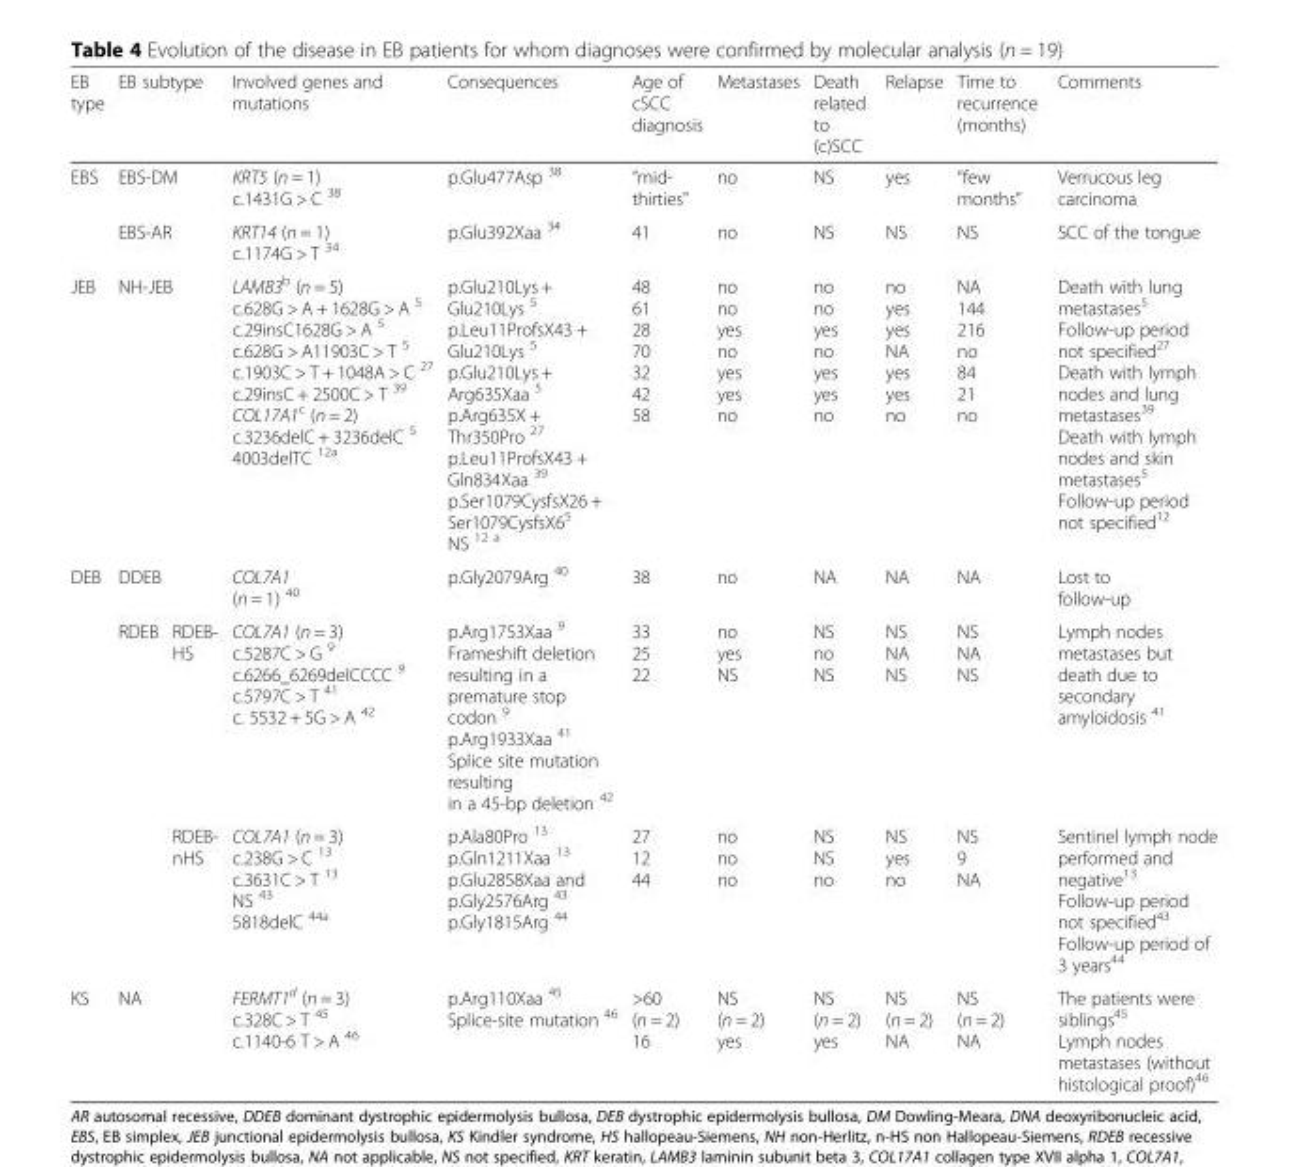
<table><thead><tr><td>EB type</td><td colspan="2">EB subtype</td><td>Involved genes and mutations</td><td>Consequences</td><td>Age of cSCC diagnosis</td><td>Metastases</td><td>Death related to (c)SCC</td><td>Relapse</td><td>Time to recurrence (months)</td><td>Comments</td></tr></thead><tbody><tr><td rowspan="2">EBS</td><td colspan="2">EBS-DM</td><td>KRT5 (n = 1) c.1431G &gt; C <sup>38</sup></td><td>p.Glu477Asp <sup>38</sup></td><td>“mid- thirties&quot;</td><td>no</td><td>NS</td><td>yes</td><td>“few months”</td><td>Verrucous leg carcinoma</td></tr><tr><td colspan="2">EBS-AR</td><td>KRT14 (n = 1) c.1174G &gt; T <sup>34</sup></td><td>p.Glu392Xaa <sup>34</sup></td><td>41</td><td>no</td><td>NS</td><td>NS</td><td>NS</td><td>SCC of the tongue</td></tr><tr><td>JEB</td><td colspan="2">NH-JEB</td><td>LAMB3<sup>b</sup> (n = 5) c.628G &gt; A + 1628G &gt; A <sup>5</sup> c.29insC1628G &gt; A <sup>5</sup> c.628G &gt; A11903C &gt; T <sup>5</sup> c.1903C &gt; T + 1048A &gt; C <sup>27</sup> c.29insC + 2500C &gt; T <sup>39</sup> COL17A1<sup>c</sup> (n = 2) c.3236delC + 3236delC <sup>5</sup> 4003delTC <sup>12a</sup></td><td>p.Glu210Lys + Glu210Lys <sup>5</sup> p.Leu11ProfsX43 + Glu210Lys <sup>5</sup> p.Glu210Lys + Arg635Xaa <sup>5</sup> p.Arg635X + Thr350Pro <sup>27</sup> p.Leu11ProfsX43 + Gln834Xaa <sup>39</sup> p.Ser1079CysfsX26 + Ser1079CysfsX6<sup>5</sup> NS <sup>12 a</sup></td><td>48 61 28 70 32 42 58</td><td>no no yes no yes yes no</td><td>no no yes no yes yes no</td><td>no yes yes NA yes yes no</td><td>NA 144 216 no 84 21 no</td><td>Death with lung metastases<sup>5</sup> Follow-up period not specified<sup>27</sup> Death with lymph nodes and lung metastases<sup>39</sup> Death with lymph nodes and skin metastases<sup>5</sup> Follow-up period not specified<sup>12</sup></td></tr><tr><td rowspan="3">DEB</td><td colspan="2">DDEB</td><td>COL7A1 (n = 1) <sup>40</sup></td><td>p.Gly2079Arg <sup>40</sup></td><td>38</td><td>no</td><td>NA</td><td>NA</td><td>NA</td><td>Lost to follow-up</td></tr><tr><td rowspan="2">RDEB</td><td>RDEB- HS</td><td>COL7A1 (n = 3) c.5287C &gt; G <sup>9</sup> c.6266_6269delCCCC <sup>9</sup> c.5797C &gt; T <sup>41</sup> c. 5532 + 5G &gt; A <sup>42</sup></td><td>p.Arg1753Xaa <sup>9</sup> Frameshift deletion resulting in a premature stop codon <sup>9</sup> p.Arg1933Xaa <sup>41</sup> Splice site mutation resulting in a 45-bp deletion <sup>42</sup></td><td>33 25 22</td><td>no yes NS</td><td>NS no NS</td><td>NS NA NS</td><td>NS NA NS</td><td>Lymph nodes metastases but death due to secondary amyloidosis <sup>41</sup></td></tr><tr><td>RDEB- nHS</td><td>COL7A1 (n = 3) c.238G &gt; C <sup>13</sup> c.3631C &gt; T <sup>13</sup> NS <sup>43</sup> 5818delC <sup>44a</sup></td><td>p.Ala80Pro <sup>13</sup> p.Gln1211Xaa <sup>13</sup> p.Glu2858Xaa and p.Gly2576Arg <sup>43</sup> p.Gly1815Arg <sup>44</sup></td><td>27 12 44</td><td>no no no</td><td>NS NS no</td><td>NS yes no</td><td>NS 9 NA</td><td>Sentinel lymph node performed and negative<sup>13</sup> Follow-up period not specified<sup>43</sup> Follow-up period of 3 years<sup>44</sup></td></tr><tr><td>KS</td><td colspan="2">NA</td><td>FERMT1<sup>d</sup> (n = 3) c.328C &gt; T <sup>45</sup> c.1140-6 T &gt; A <sup>46</sup></td><td>p.Arg110Xaa <sup>45</sup> Splice-site mutation <sup>46</sup></td><td>&gt;60 (n = 2) 16</td><td>NS (n = 2) yes</td><td>NS (n = 2) yes</td><td>NS (n = 2) NA</td><td>NS (n = 2) NA</td><td>The patients were siblings<sup>45</sup> Lymph nodes metastases (without histological proof)<sup>46</sup></td></tr></tbody></table>